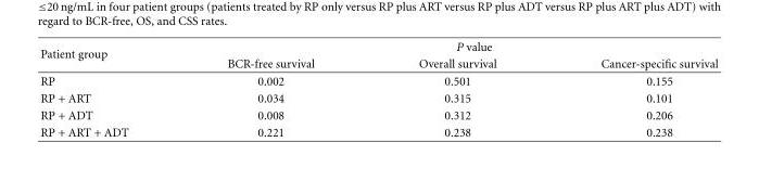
<table><thead><tr><td rowspan="2">Patient group</td><td colspan="3">P value</td></tr><tr><td>BCR-free survival</td><td>Overall survival</td><td>Cancer-specific survival</td></tr></thead><tbody><tr><td>RP</td><td>0.002</td><td>0.501</td><td>0.155</td></tr><tr><td>RP + ART</td><td>0.034</td><td>0.315</td><td>0.101</td></tr><tr><td>RP + ADT</td><td>0.008</td><td>0.312</td><td>0.206</td></tr><tr><td>RP + ART + ADT</td><td>0.221</td><td>0.238</td><td>0.238</td></tr></tbody></table>